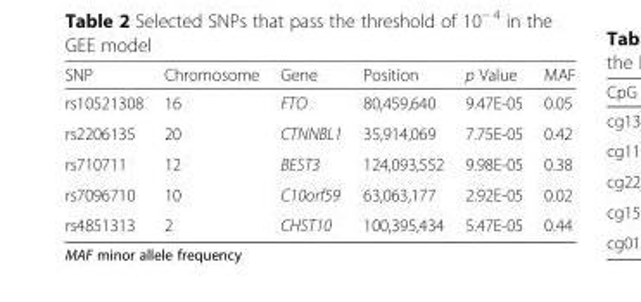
<table><thead><tr><td>SNP</td><td>Chromosome</td><td>Gene</td><td>Position</td><td>p Value</td><td>MAF</td></tr></thead><tbody><tr><td>rs10521308</td><td>16</td><td>FTO</td><td>80,459,640</td><td>9.47E-05</td><td>0.05</td></tr><tr><td>rs2206135</td><td>20</td><td>CTNNBL1</td><td>35,914,069</td><td>7.75E-05</td><td>0.42</td></tr><tr><td>rs710711</td><td>12</td><td>BEST3</td><td>124,093,552</td><td>9.98E-05</td><td>0.38</td></tr><tr><td>rs7096710</td><td>10</td><td>C10orf59</td><td>63,063,177</td><td>2.92E-05</td><td>0.02</td></tr><tr><td>rs4851313</td><td>2</td><td>CHST10</td><td>100,395,434</td><td>5.47E-05</td><td>0.44</td></tr></tbody></table>